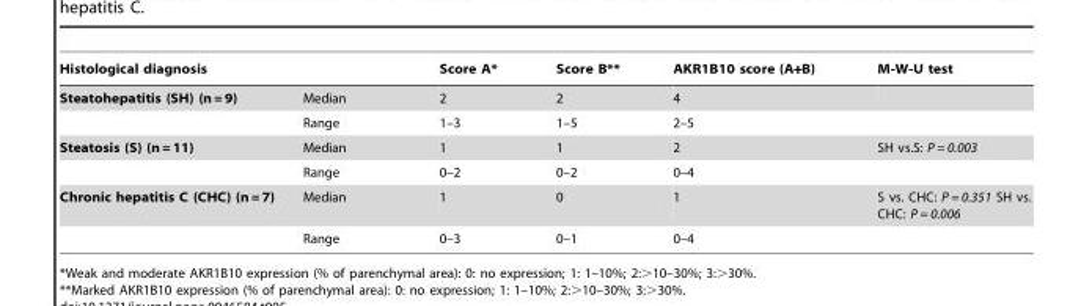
<table><thead><tr><td>Histological diagnosis</td><td></td><td>Score A*</td><td>Score B**</td><td>AKR1B10 score (A+B)</td><td>M-W-U test</td></tr></thead><tbody><tr><td rowspan="2">Steatohepatitis (SH) (n = 9)</td><td>Median</td><td>2</td><td>2</td><td>4</td><td></td></tr><tr><td>Range</td><td>1–3</td><td>1–5</td><td>2–5</td><td></td></tr><tr><td rowspan="2">Steatosis (S) (n = 11)</td><td>Median</td><td>1</td><td>1</td><td>2</td><td>SH vs.S: P = 0.003</td></tr><tr><td>Range</td><td>0–2</td><td>0–2</td><td>0–4</td><td></td></tr><tr><td rowspan="2">Chronic hepatitis C (CHC) (n = 7)</td><td>Median</td><td>1</td><td>0</td><td>1</td><td>S vs. CHC: P = 0.351 SH vs. CHC: P = 0.006</td></tr><tr><td>Range</td><td>0–3</td><td>0–1</td><td>0–4</td><td></td></tr></tbody></table>